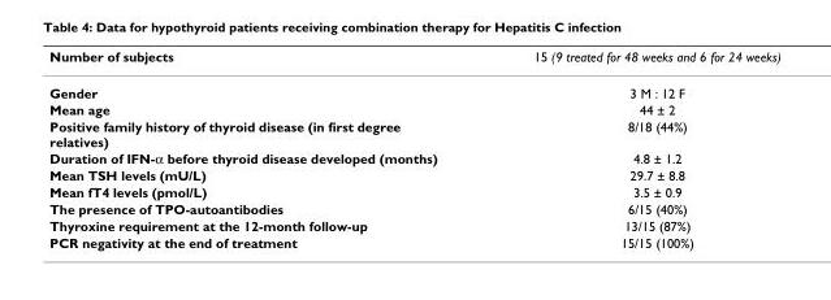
<table><thead><tr><td>Number of subjects</td><td>15 (9 treated for 48 weeks and 6 for 24 weeks)</td></tr></thead><tbody><tr><td>Gender</td><td>3 M : 12 F</td></tr><tr><td>Mean age</td><td>44 ± 2</td></tr><tr><td>Positive family history of thyroid disease (in first degree relatives)</td><td>8/18 (44%)</td></tr><tr><td>Duration of IFN-α before thyroid disease developed (months)</td><td>4.8 ± 1.2</td></tr><tr><td>Mean TSH levels (mU/L)</td><td>29.7 ± 8.8</td></tr><tr><td>Mean fT4 levels (pmol/L)</td><td>3.5 ± 0.9</td></tr><tr><td>The presence of TPO-autoantibodies</td><td>6/15 (40%)</td></tr><tr><td>Thyroxine requirement at the 12-month follow-up</td><td>13/15 (87%)</td></tr><tr><td>PCR negativity at the end of treatment</td><td>15/15 (100%)</td></tr></tbody></table>